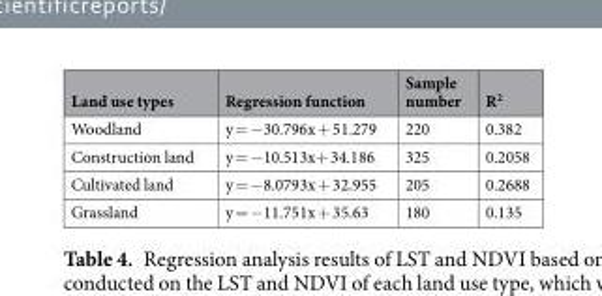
<table><thead><tr><td>Land use types</td><td>Regression function</td><td>Sample number</td><td>R<sup>2</sup></td></tr></thead><tbody><tr><td>Woodland</td><td>y = −30.796x + 51.279</td><td>220</td><td>0.382</td></tr><tr><td>Construction land</td><td>y = −10.513x+ 34.186</td><td>325</td><td>0.2058</td></tr><tr><td>Cultivated land</td><td>y = −8.0793x + 32.955</td><td>205</td><td>0.2688</td></tr><tr><td>Grassland</td><td>y = −11.751x + 35.63</td><td>180</td><td>0.135</td></tr></tbody></table>